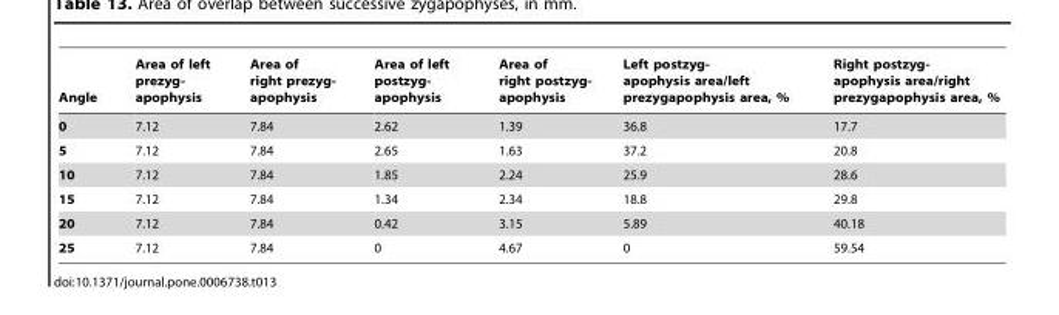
<table><thead><tr><td>Angle</td><td>Area of left prezyg- apophysis</td><td>Area of right prezyg- apophysis</td><td>Area of left postzyg- apophysis</td><td>Area of right postzyg- apophysis</td><td>Left postzyg- apophysis area/left prezygapophysis area, %</td><td>Right postzyg- apophysis area/right prezygapophysis area, %</td></tr></thead><tbody><tr><td>0</td><td>7.12</td><td>7.84</td><td>2.62</td><td>1.39</td><td>36.8</td><td>17.7</td></tr><tr><td>5</td><td>7.12</td><td>7.84</td><td>2.65</td><td>1.63</td><td>37.2</td><td>20.8</td></tr><tr><td>10</td><td>7.12</td><td>7.84</td><td>1.85</td><td>2.24</td><td>25.9</td><td>28.6</td></tr><tr><td>15</td><td>7.12</td><td>7.84</td><td>1.34</td><td>2.34</td><td>18.8</td><td>29.8</td></tr><tr><td>20</td><td>7.12</td><td>7.84</td><td>0.42</td><td>3.15</td><td>5.89</td><td>40.18</td></tr><tr><td>25</td><td>7.12</td><td>7.84</td><td>0</td><td>4.67</td><td>0</td><td>59.54</td></tr></tbody></table>